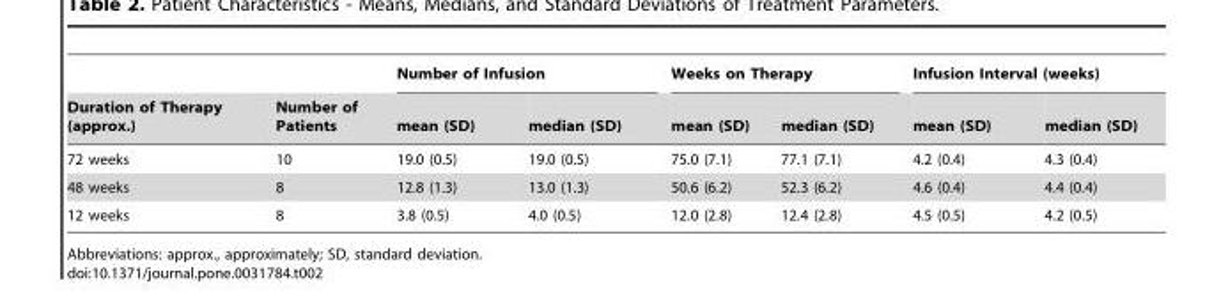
<table><thead><tr><td rowspan="2">Duration of Therapy (approx.)</td><td rowspan="2">Number of Patients</td><td colspan="2">Number of Infusion</td><td colspan="2">Weeks on Therapy</td><td colspan="2">Infusion Interval (weeks)</td></tr><tr><td>mean (SD)</td><td>median (SD)</td><td>mean (SD)</td><td>median (SD)</td><td>mean (SD)</td><td>median (SD)</td></tr></thead><tbody><tr><td>72 weeks</td><td>10</td><td>19.0 (0.5)</td><td>19.0 (0.5)</td><td>75.0 (7.1)</td><td>77.1 (7.1)</td><td>4.2 (0.4)</td><td>4.3 (0.4)</td></tr><tr><td>48 weeks</td><td>8</td><td>12.8 (1.3)</td><td>13.0 (1.3)</td><td>50.6 (6.2)</td><td>52.3 (6.2)</td><td>4.6 (0.4)</td><td>4.4 (0.4)</td></tr><tr><td>12 weeks</td><td>8</td><td>3.8 (0.5)</td><td>4.0 (0.5)</td><td>12.0 (2.8)</td><td>12.4 (2.8)</td><td>4.5 (0.5)</td><td>4.2 (0.5)</td></tr></tbody></table>